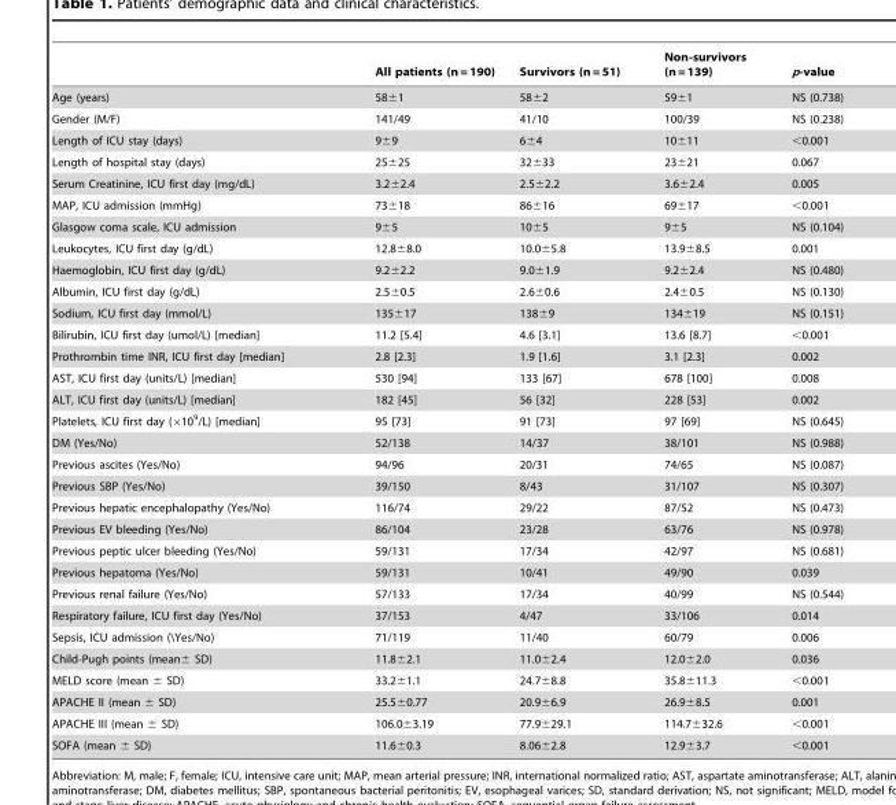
<table><thead><tr><td></td><td>All patients (n = 190)</td><td>Survivors (n = 51)</td><td>Non-survivors (n = 139)</td><td>p-value</td></tr></thead><tbody><tr><td>Age (years)</td><td>58±1</td><td>58±2</td><td>59±1</td><td>NS (0.738)</td></tr><tr><td>Gender (M/F)</td><td>141/49</td><td>41/10</td><td>100/39</td><td>NS (0.238)</td></tr><tr><td>Length of ICU stay (days)</td><td>9±9</td><td>6±4</td><td>10±11</td><td>&lt;0.001</td></tr><tr><td>Length of hospital stay (days)</td><td>25±25</td><td>32±33</td><td>23±21</td><td>0.067</td></tr><tr><td>Serum Creatinine, ICU first day (mg/dL)</td><td>3.2±2.4</td><td>2.5±2.2</td><td>3.6±2.4</td><td>0.005</td></tr><tr><td>MAP, ICU admission (mmHg)</td><td>73±18</td><td>86±16</td><td>69±17</td><td>&lt;0.001</td></tr><tr><td>Glasgow coma scale, ICU admission</td><td>9±5</td><td>10±5</td><td>9±5</td><td>NS (0.104)</td></tr><tr><td>Leukocytes, ICU first day (g/dL)</td><td>12.8±8.0</td><td>10.0±5.8</td><td>13.9±8.5</td><td>0.001</td></tr><tr><td>Haemoglobin, ICU first day (g/dL)</td><td>9.2±2.2</td><td>9.0±1.9</td><td>9.2±2.4</td><td>NS (0.480)</td></tr><tr><td>Albumin, ICU first day (g/dL)</td><td>2.5±0.5</td><td>2.6±0.6</td><td>2.4±0.5</td><td>NS (0.130)</td></tr><tr><td>Sodium, ICU first day (mmol/L)</td><td>135±17</td><td>138±9</td><td>134±19</td><td>NS (0.151)</td></tr><tr><td>Bilirubin, ICU first day (umol/L) [median]</td><td>11.2 [5.4]</td><td>4.6 [3.1]</td><td>13.6 [8.7]</td><td>&lt;0.001</td></tr><tr><td>Prothrombin time INR, ICU first day [median]</td><td>2.8 [2.3]</td><td>1.9 [1.6]</td><td>3.1 [2.3]</td><td>0.002</td></tr><tr><td>AST, ICU first day (units/L) [median]</td><td>530 [94]</td><td>133 [67]</td><td>678 [100]</td><td>0.008</td></tr><tr><td>ALT, ICU first day (units/L) [median]</td><td>182 [45]</td><td>56 [32]</td><td>228 [53]</td><td>0.002</td></tr><tr><td>Platelets, ICU first day (×10<sup>9</sup>/L) [median]</td><td>95 [73]</td><td>91 [73]</td><td>97 [69]</td><td>NS (0.645)</td></tr><tr><td>DM (Yes/No)</td><td>52/138</td><td>14/37</td><td>38/101</td><td>NS (0.988)</td></tr><tr><td>Previous ascites (Yes/No)</td><td>94/96</td><td>20/31</td><td>74/65</td><td>NS (0.087)</td></tr><tr><td>Previous SBP (Yes/No)</td><td>39/150</td><td>8/43</td><td>31/107</td><td>NS (0.307)</td></tr><tr><td>Previous hepatic encephalopathy (Yes/No)</td><td>116/74</td><td>29/22</td><td>87/52</td><td>NS (0.473)</td></tr><tr><td>Previous EV bleeding (Yes/No)</td><td>86/104</td><td>23/28</td><td>63/76</td><td>NS (0.978)</td></tr><tr><td>Previous peptic ulcer bleeding (Yes/No)</td><td>59/131</td><td>17/34</td><td>42/97</td><td>NS (0.681)</td></tr><tr><td>Previous hepatoma (Yes/No)</td><td>59/131</td><td>10/41</td><td>49/90</td><td>0.039</td></tr><tr><td>Previous renal failure (Yes/No)</td><td>57/133</td><td>17/34</td><td>40/99</td><td>NS (0.544)</td></tr><tr><td>Respiratory failure, ICU first day (Yes/No)</td><td>37/153</td><td>4/47</td><td>33/106</td><td>0.014</td></tr><tr><td>Sepsis, ICU admission (\Yes/No)</td><td>71/119</td><td>11/40</td><td>60/79</td><td>0.006</td></tr><tr><td>Child-Pugh points (mean± SD)</td><td>11.8±2.1</td><td>11.0±2.4</td><td>12.0±2.0</td><td>0.036</td></tr><tr><td>MELD score (mean ± SD)</td><td>33.2±1.1</td><td>24.7±8.8</td><td>35.8±11.3</td><td>&lt;0.001</td></tr><tr><td>APACHE II (mean ± SD)</td><td>25.5±0.77</td><td>20.9±6.9</td><td>26.9±8.5</td><td>0.001</td></tr><tr><td>APACHE III (mean ± SD)</td><td>106.0±3.19</td><td>77.9±29.1</td><td>114.7±32.6</td><td>&lt;0.001</td></tr><tr><td>SOFA (mean ± SD)</td><td>11.6±0.3</td><td>8.06±2.8</td><td>12.9±3.7</td><td>&lt;0.001</td></tr></tbody></table>